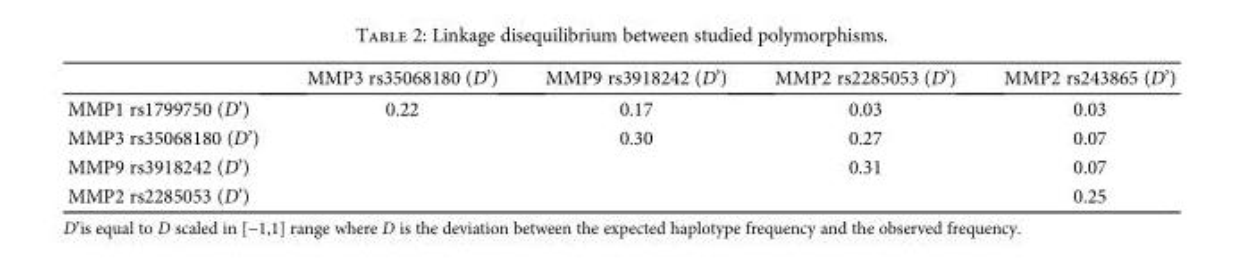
<table><thead><tr><td></td><td>MMP3 rs35068180 (D’)</td><td>MMP9 rs3918242 (D’)</td><td>MMP2 rs2285053 (D’)</td><td>MMP2 rs243865 (D’)</td></tr></thead><tbody><tr><td>MMP1 rs1799750 (D’)</td><td>0.22</td><td>0.17</td><td>0.03</td><td>0.03</td></tr><tr><td>MMP3 rs35068180 (D’)</td><td></td><td>0.30</td><td>0.27</td><td>0.07</td></tr><tr><td>MMP9 rs3918242 (D’)</td><td></td><td></td><td>0.31</td><td>0.07</td></tr><tr><td>MMP2 rs2285053 (D’)</td><td></td><td></td><td></td><td>0.25</td></tr></tbody></table>